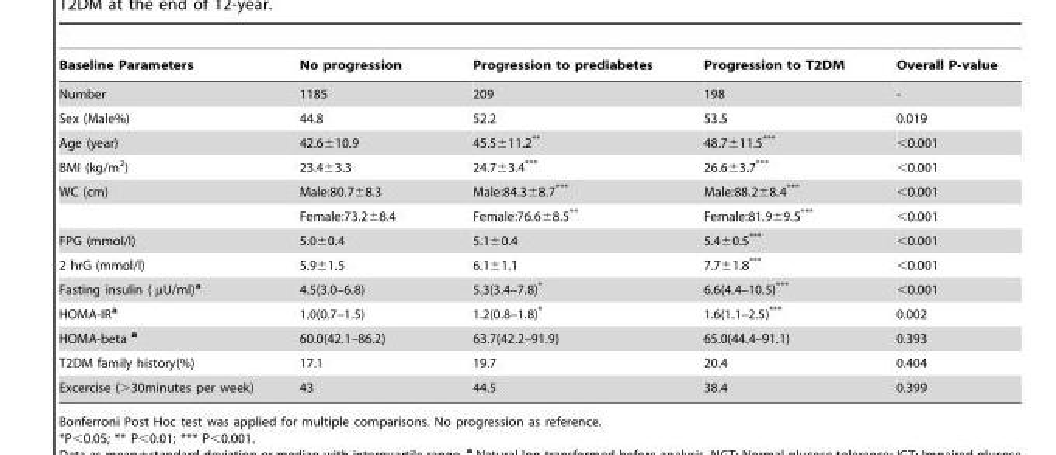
<table><thead><tr><td>Baseline Parameters</td><td>No progression</td><td>Progression to prediabetes</td><td>Progression to T2DM</td><td>Overall P-value</td></tr></thead><tbody><tr><td>Number</td><td>1185</td><td>209</td><td>198</td><td>-</td></tr><tr><td>Sex (Male%)</td><td>44.8</td><td>52.2</td><td>53.5</td><td>0.019</td></tr><tr><td>Age (year)</td><td>42.6±10.9</td><td>45.5±11.2**</td><td>48.7±11.5***</td><td>&lt;0.001</td></tr><tr><td>BMI (kg/m<sup>2</sup>)</td><td>23.4±3.3</td><td>24.7±3.4***</td><td>26.6±3.7***</td><td>&lt;0.001</td></tr><tr><td rowspan="2">WC (cm)</td><td>Male:80.7±8.3</td><td>Male:84.3±8.7***</td><td>Male:88.2±8.4***</td><td>&lt;0.001</td></tr><tr><td>Female:73.2±8.4</td><td>Female:76.6±8.5**</td><td>Female:81.9±9.5***</td><td>&lt;0.001</td></tr><tr><td>FPG (mmol/l)</td><td>5.0±0.4</td><td>5.1±0.4</td><td>5.4±0.5***</td><td>&lt;0.001</td></tr><tr><td>2 hrG (mmol/l)</td><td>5.9±1.5</td><td>6.1±1.1</td><td>7.7±1.8***</td><td>&lt;0.001</td></tr><tr><td>Fasting insulin ( µU/ml)<sup>a</sup></td><td>4.5(3.0–6.8)</td><td>5.3(3.4–7.8)*</td><td>6.6(4.4–10.5)***</td><td>&lt;0.001</td></tr><tr><td>HOMA-IR<sup>a</sup></td><td>1.0(0.7–1.5)</td><td>1.2(0.8–1.8)*</td><td>1.6(1.1–2.5)***</td><td>0.002</td></tr><tr><td>HOMA-beta <sup>a</sup></td><td>60.0(42.1–86.2)</td><td>63.7(42.2–91.9)</td><td>65.0(44.4–91.1)</td><td>0.393</td></tr><tr><td>T2DM family history(%)</td><td>17.1</td><td>19.7</td><td>20.4</td><td>0.404</td></tr><tr><td>Excercise (&gt;30minutes per week)</td><td>43</td><td>44.5</td><td>38.4</td><td>0.399</td></tr></tbody></table>